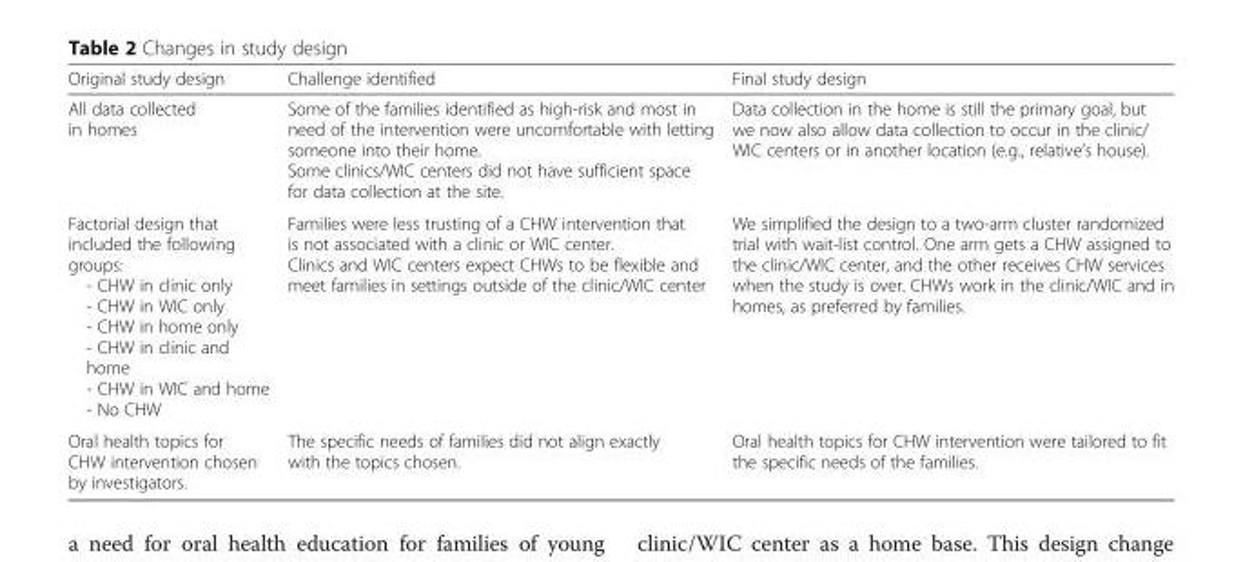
<table><thead><tr><td>Original study design</td><td>Challenge identified</td><td>Final study design</td></tr></thead><tbody><tr><td>All data collected in homes</td><td>Some of the families identified as high-risk and most in need of the intervention were uncomfortable with letting someone into their home. Some clinics/WIC centers did not have sufficient space for data collection at the site.</td><td>Data collection in the home is still the primary goal, but we now also allow data collection to occur in the clinic/ WIC centers or in another location (e.g., relative’s house).</td></tr><tr><td>Factorial design that included the following groups: - CHW in clinic only - CHW in WIC only - CHW in home only - CHW in clinic and home - CHW in WIC and home - No CHW</td><td>Families were less trusting of a CHW intervention that is not associated with a clinic or WIC center. Clinics and WIC centers expect CHWs to be flexible and meet families in settings outside of the clinic/WIC center</td><td>We simplified the design to a two-arm cluster randomized trial with wait-list control. One arm gets a CHW assigned to the clinic/WIC center, and the other receives CHW services when the study is over. CHWs work in the clinic/WIC and in homes, as preferred by families.</td></tr><tr><td>Oral health topics for CHW intervention chosen by investigators.</td><td>The specific needs of families did not align exactly with the topics chosen.</td><td>Oral health topics for CHW intervention were tailored to fit the specific needs of the families.</td></tr></tbody></table>